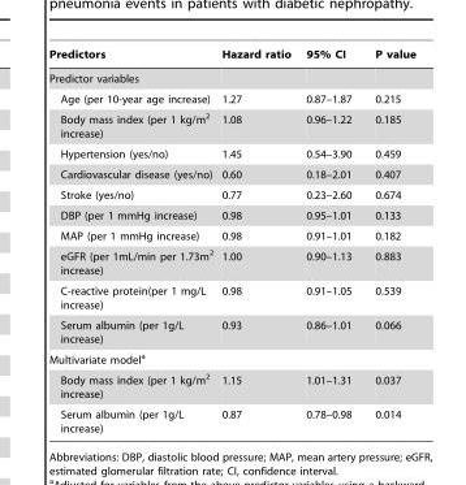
<table><thead><tr><td>Predictors</td><td>Hazard ratio</td><td>95% CI</td><td>P value</td></tr></thead><tbody><tr><td colspan="4">Predictor variables</td></tr><tr><td>Age (per 10-year age increase)</td><td>1.27</td><td>0.87–1.87</td><td>0.215</td></tr><tr><td>Body mass index (per 1 kg/m<sup>2</sup> increase)</td><td>1.08</td><td>0.96–1.22</td><td>0.185</td></tr><tr><td>Hypertension (yes/no)</td><td>1.45</td><td>0.54–3.90</td><td>0.459</td></tr><tr><td>Cardiovascular disease (yes/no)</td><td>0.60</td><td>0.18–2.01</td><td>0.407</td></tr><tr><td>Stroke (yes/no)</td><td>0.77</td><td>0.23–2.60</td><td>0.674</td></tr><tr><td>DBP (per 1 mmHg increase)</td><td>0.98</td><td>0.95–1.01</td><td>0.133</td></tr><tr><td>MAP (per 1 mmHg increase)</td><td>0.98</td><td>0.91–1.01</td><td>0.182</td></tr><tr><td>eGFR (per 1mL/min per 1.73m<sup>2</sup> increase)</td><td>1.00</td><td>0.90–1.13</td><td>0.883</td></tr><tr><td>C-reactive protein(per 1 mg/L increase)</td><td>0.98</td><td>0.91–1.05</td><td>0.539</td></tr><tr><td>Serum albumin (per 1g/L increase)</td><td>0.93</td><td>0.86–1.01</td><td>0.066</td></tr><tr><td colspan="4">Multivariate model<sup>a</sup></td></tr><tr><td>Body mass index (per 1 kg/m<sup>2</sup> increase)</td><td>1.15</td><td>1.01–1.31</td><td>0.037</td></tr><tr><td>Serum albumin (per 1g/L increase)</td><td>0.87</td><td>0.78–0.98</td><td>0.014</td></tr></tbody></table>